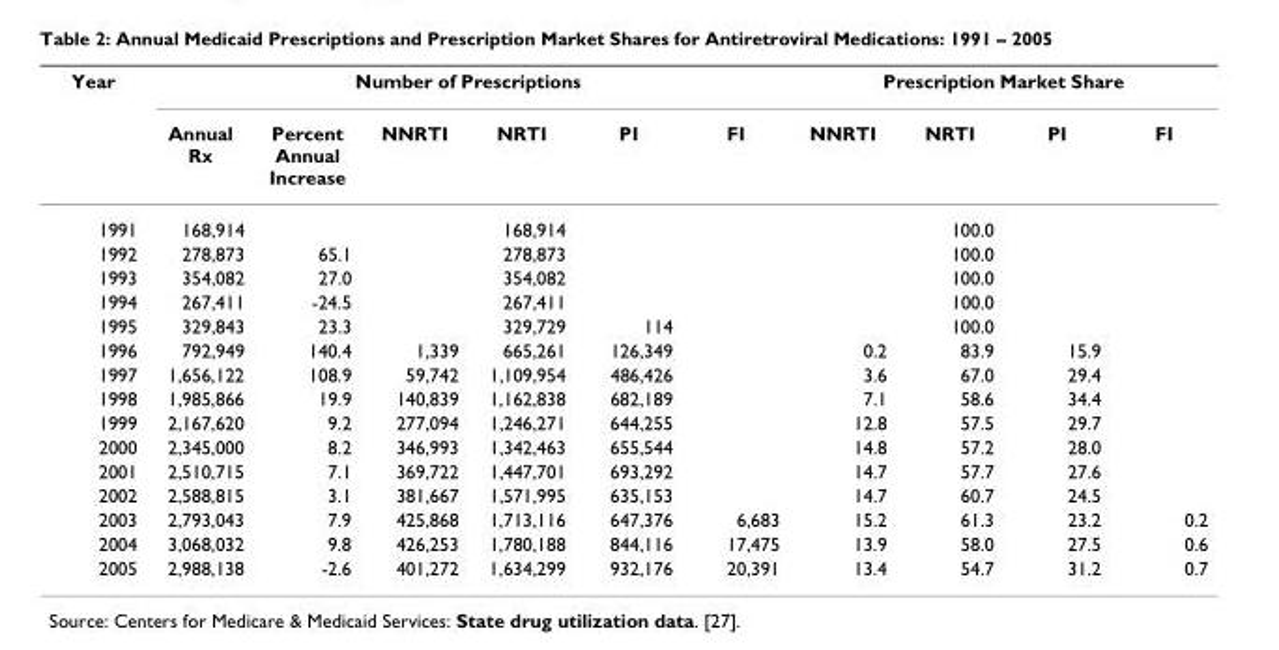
<table><thead><tr><td rowspan="2">Year</td><td colspan="6">Number of Prescriptions</td><td colspan="4">Prescription Market Share</td></tr><tr><td>Annual Rx</td><td>Percent Annual Increase</td><td>NNRTI</td><td>NRTI</td><td>PI</td><td>FI</td><td>NNRTI</td><td>NRTI</td><td>PI</td><td>FI</td></tr></thead><tbody><tr><td>1991</td><td>168,914</td><td></td><td></td><td>168,914</td><td></td><td></td><td></td><td>100.0</td><td></td><td></td></tr><tr><td>1992</td><td>278,873</td><td>65.1</td><td></td><td>278,873</td><td></td><td></td><td></td><td>100.0</td><td></td><td></td></tr><tr><td>1993</td><td>354,082</td><td>27.0</td><td></td><td>354,082</td><td></td><td></td><td></td><td>100.0</td><td></td><td></td></tr><tr><td>1994</td><td>267,411</td><td>-24.5</td><td></td><td>267,411</td><td></td><td></td><td></td><td>100.0</td><td></td><td></td></tr><tr><td>1995</td><td>329,843</td><td>23.3</td><td></td><td>329,729</td><td>114</td><td></td><td></td><td>100.0</td><td></td><td></td></tr><tr><td>1996</td><td>792,949</td><td>140.4</td><td>1,339</td><td>665,261</td><td>126,349</td><td></td><td>0.2</td><td>83.9</td><td>15.9</td><td></td></tr><tr><td>1997</td><td>1,656,122</td><td>108.9</td><td>59,742</td><td>1,109,954</td><td>486,426</td><td></td><td>3.6</td><td>67.0</td><td>29.4</td><td></td></tr><tr><td>1998</td><td>1,985,866</td><td>19.9</td><td>140,839</td><td>1,162,838</td><td>682,189</td><td></td><td>7.1</td><td>58.6</td><td>34.4</td><td></td></tr><tr><td>1999</td><td>2,167,620</td><td>9.2</td><td>277,094</td><td>1,246,271</td><td>644,255</td><td></td><td>12.8</td><td>57.5</td><td>29.7</td><td></td></tr><tr><td>2000</td><td>2,345,000</td><td>8.2</td><td>346,993</td><td>1,342,463</td><td>655,544</td><td></td><td>14.8</td><td>57.2</td><td>28.0</td><td></td></tr><tr><td>2001</td><td>2,510,715</td><td>7.1</td><td>369,722</td><td>1,447,701</td><td>693,292</td><td></td><td>14.7</td><td>57.7</td><td>27.6</td><td></td></tr><tr><td>2002</td><td>2,588,815</td><td>3.1</td><td>381,667</td><td>1,571,995</td><td>635,153</td><td></td><td>14.7</td><td>60.7</td><td>24.5</td><td></td></tr><tr><td>2003</td><td>2,793,043</td><td>7.9</td><td>425,868</td><td>1,713,116</td><td>647,376</td><td>6,683</td><td>15.2</td><td>61.3</td><td>23.2</td><td>0.2</td></tr><tr><td>2004</td><td>3,068,032</td><td>9.8</td><td>426,253</td><td>1,780,188</td><td>844,116</td><td>17,475</td><td>13.9</td><td>58.0</td><td>27.5</td><td>0.6</td></tr><tr><td>2005</td><td>2,988,138</td><td>-2.6</td><td>401,272</td><td>1,634,299</td><td>932,176</td><td>20,391</td><td>13.4</td><td>54.7</td><td>31.2</td><td>0.7</td></tr></tbody></table>